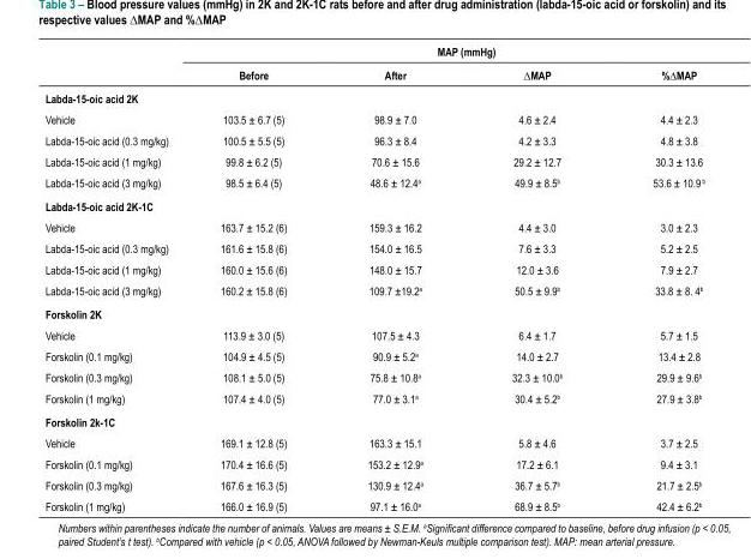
<table><thead><tr><td rowspan="2"></td><td colspan="4">MAP (mmHg)</td></tr><tr><td>Before</td><td>After</td><td>∆MAP</td><td>%∆MAP</td></tr></thead><tbody><tr><td colspan="5">Labda-15-oic acid 2K</td></tr><tr><td>Vehicle</td><td>103.5 ± 6.7 (5)</td><td>98.9 ± 7.0</td><td>4.6 ± 2.4</td><td>4.4 ± 2.3</td></tr><tr><td>Labda-15-oic acid (0.3 mg/kg)</td><td>100.5 ± 5.5 (5)</td><td>96.3 ± 8.4</td><td>4.2 ± 3.3</td><td>4.8 ± 3.8</td></tr><tr><td>Labda-15-oic acid (1 mg/kg)</td><td>99.8 ± 6.2 (5)</td><td>70.6 ± 15.6</td><td>29.2 ± 12.7</td><td>30.3 ± 13.6</td></tr><tr><td>Labda-15-oic acid (3 mg/kg)</td><td>98.5 ± 6.4 (5)</td><td>48.6 ± 12.4<sup>a</sup></td><td>49.9 ± 8.5<sup>b</sup></td><td>53.6 ± 10.9 <sup>b</sup></td></tr><tr><td colspan="5">Labda-15-oic acid 2K-1C</td></tr><tr><td>Vehicle</td><td>163.7 ± 15.2 (6)</td><td>159.3 ± 16.2</td><td>4.4 ± 3.0</td><td>3.0 ± 2.3</td></tr><tr><td>Labda-15-oic acid (0.3 mg/kg)</td><td>161.6 ± 15.8 (6)</td><td>154.0 ± 16.5</td><td>7.6 ± 3.3</td><td>5.2 ± 2.5</td></tr><tr><td>Labda-15-oic acid (1 mg/kg)</td><td>160.0 ± 15.6 (6)</td><td>148.0 ± 15.7</td><td>12.0 ± 3.6</td><td>7.9 ± 2.7</td></tr><tr><td>Labda-15-oic acid (3 mg/kg)</td><td>160.2 ± 15.8 (6)</td><td>109.7 ±19.2<sup>a</sup></td><td>50.5 ± 9.9<sup>b</sup></td><td>33.8 ± 8. 4<sup>b</sup></td></tr><tr><td colspan="5">Forskolin 2K</td></tr><tr><td>Vehicle</td><td>113.9 ± 3.0 (5)</td><td>107.5 ± 4.3</td><td>6.4 ± 1.7</td><td>5.7 ± 1.5</td></tr><tr><td>Forskolin (0.1 mg/kg)</td><td>104.9 ± 4.5 (5)</td><td>90.9 ± 5.2<sup>a</sup></td><td>14.0 ± 2.7</td><td>13.4 ± 2.8</td></tr><tr><td>Forskolin (0.3 mg/kg)</td><td>108.1 ± 5.0 (5)</td><td>75.8 ± 10.8<sup>a</sup></td><td>32.3 ± 10.0<sup>b</sup></td><td>29.9 ± 9.6<sup>b</sup></td></tr><tr><td>Forskolin (1 mg/kg)</td><td>107.4 ± 4.0 (5)</td><td>77.0 ± 3.1<sup>a</sup></td><td>30.4 ± 5.2<sup>b</sup></td><td>27.9 ± 3.8<sup>b</sup></td></tr><tr><td colspan="5">Forskolin 2k-1C</td></tr><tr><td>Vehicle</td><td>169.1 ± 12.8 (5)</td><td>163.3 ± 15.1</td><td>5.8 ± 4.6</td><td>3.7 ± 2.5</td></tr><tr><td>Forskolin (0.1 mg/kg)</td><td>170.4 ± 16.6 (5)</td><td>153.2 ± 12.9<sup>a</sup></td><td>17.2 ± 6.1</td><td>9.4 ± 3.1</td></tr><tr><td>Forskolin (0.3 mg/kg)</td><td>167.6 ± 16.3 (5)</td><td>130.9 ± 12.4<sup>a</sup></td><td>36.7 ± 5.7<sup>b</sup></td><td>21.7 ± 2.5<sup>b</sup></td></tr><tr><td>Forskolin (1 mg/kg)</td><td>166.0 ± 16.9 (5)</td><td>97.1 ± 16.0<sup>a</sup></td><td>68.9 ± 8.5<sup>b</sup></td><td>42.4 ± 6.2<sup>b</sup></td></tr></tbody></table>